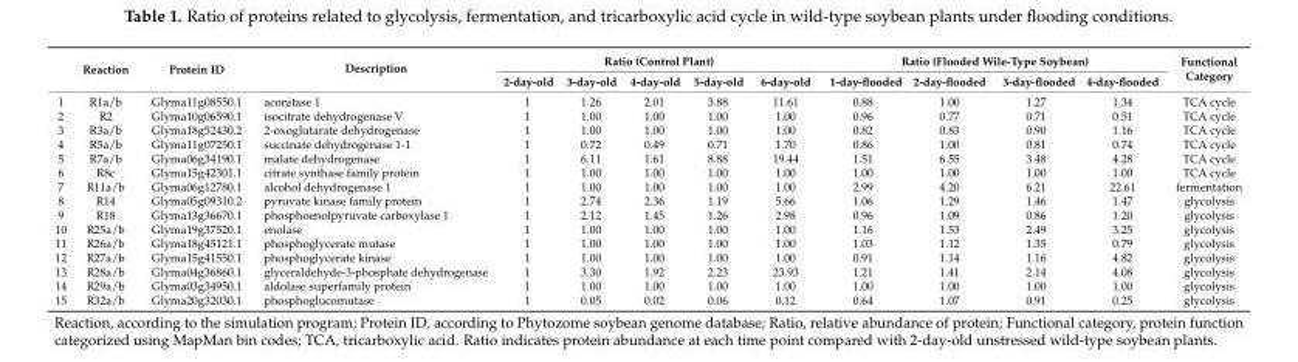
<table><thead><tr><td rowspan="2"></td><td rowspan="2">Reaction</td><td rowspan="2">Protein ID</td><td rowspan="2">Description</td><td colspan="5">Ratio (Control Plant)</td><td colspan="4">Ratio (Flooded Wile-Type Soybean)</td><td rowspan="2">Functional Category</td></tr><tr><td>2-day-old</td><td>3-day-old</td><td>4-day-old</td><td>5-day-old</td><td>6-day-old</td><td>1-day-flooded</td><td>2-day-flooded</td><td>3-day-flooded</td><td>4-day-flooded</td></tr></thead><tbody><tr><td>1</td><td>R1a/b</td><td>Glyma11g08550.1</td><td>aconitase 1</td><td>1</td><td>1.26</td><td>2.01</td><td>3.88</td><td>11.61</td><td>0.88</td><td>1.00</td><td>1.27</td><td>1.34</td><td>TCA cycle</td></tr><tr><td>2</td><td>R2</td><td>Glyma10g06590.1</td><td>isocitrate dehydrogenase V</td><td>1</td><td>1.00</td><td>1.00</td><td>1.00</td><td>1.00</td><td>0.96</td><td>0.77</td><td>0.71</td><td>0.51</td><td>TCA cycle</td></tr><tr><td>3</td><td>R3a/b</td><td>Glyma18g52430.2</td><td>2-oxoglutarate dehydrogenase</td><td>1</td><td>1.00</td><td>1.00</td><td>1.00</td><td>1.00</td><td>0.82</td><td>0.83</td><td>0.90</td><td>1.16</td><td>TCA cycle</td></tr><tr><td>4</td><td>R5a/b</td><td>Glyma11g07250.1</td><td>succinate dehydrogenase 1-1</td><td>1</td><td>0.72</td><td>0.49</td><td>0.71</td><td>1.70</td><td>0.86</td><td>1.00</td><td>0.81</td><td>0.74</td><td>TCA cycle</td></tr><tr><td>5</td><td>R7a/b</td><td>Glyma06g34190.1</td><td>malate dehydrogenase</td><td>1</td><td>6.11</td><td>1.61</td><td>8.88</td><td>19.44</td><td>1.51</td><td>6.55</td><td>3.48</td><td>4.28</td><td>TCA cycle</td></tr><tr><td>6</td><td>R8c</td><td>Glyma15g42301.1</td><td>citrate synthase family protein</td><td>1</td><td>1.00</td><td>1.00</td><td>1.00</td><td>1.00</td><td>1.00</td><td>1.00</td><td>1.00</td><td>1.00</td><td>TCA cycle</td></tr><tr><td>7</td><td>R11a/b</td><td>Glyma06g12780.1</td><td>alcohol dehydrogenase 1</td><td>1</td><td>1.00</td><td>1.00</td><td>1.00</td><td>1.00</td><td>2.99</td><td>4.20</td><td>6.21</td><td>22.61</td><td>fermentation</td></tr><tr><td>8</td><td>R14</td><td>Glyma05g09310.2</td><td>pyruvate kinase family protein</td><td>1</td><td>2.74</td><td>2.36</td><td>1.19</td><td>5.66</td><td>1.06</td><td>1.29</td><td>1.46</td><td>1.47</td><td>glycolysis</td></tr><tr><td>9</td><td>R18</td><td>Glyma13g36670.1</td><td>phosphoenolpyruvate carboxylase 1</td><td>1</td><td>2.12</td><td>1.45</td><td>1.26</td><td>2.98</td><td>0.96</td><td>1.09</td><td>0.86</td><td>1.20</td><td>glycolysis</td></tr><tr><td>10</td><td>R25a/b</td><td>Glyma19g37520.1</td><td>enolase</td><td>1</td><td>1.00</td><td>1.00</td><td>1.00</td><td>1.00</td><td>1.16</td><td>1.53</td><td>2.49</td><td>3.25</td><td>glycolysis</td></tr><tr><td>11</td><td>R26a/b</td><td>Glyma18g45121.1</td><td>phosphoglycerate mutase</td><td>1</td><td>1.00</td><td>1.00</td><td>1.00</td><td>1.00</td><td>1.03</td><td>1.12</td><td>1.35</td><td>0.79</td><td>glycolysis</td></tr><tr><td>12</td><td>R27a/b</td><td>Glyma15g41550.1</td><td>phosphoglycerate kinase</td><td>1</td><td>1.00</td><td>1.00</td><td>1.00</td><td>1.00</td><td>0.91</td><td>1.14</td><td>1.16</td><td>4.82</td><td>glycolysis</td></tr><tr><td>13</td><td>R28a/b</td><td>Glyma04g36860.1</td><td>glyceraldehyde-3-phosphate dehydrogenase</td><td>1</td><td>3.30</td><td>1.92</td><td>2.23</td><td>23.93</td><td>1.21</td><td>1.41</td><td>2.14</td><td>4.08</td><td>glycolysis</td></tr><tr><td>14</td><td>R29a/b</td><td>Glyma03g34950.1</td><td>aldolase superfamily protein</td><td>1</td><td>1.00</td><td>1.00</td><td>1.00</td><td>1.00</td><td>1.00</td><td>1.00</td><td>1.00</td><td>1.00</td><td>glycolysis</td></tr><tr><td>15</td><td>R32a/b</td><td>Glyma20g32030.1</td><td>phosphoglucomutase</td><td>1</td><td>0.05</td><td>0.02</td><td>0.06</td><td>0.12</td><td>0.64</td><td>1.07</td><td>0.91</td><td>0.25</td><td>glycolysis</td></tr></tbody></table>